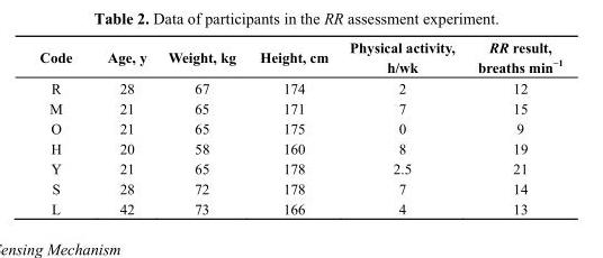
<table><thead><tr><td>Code</td><td>Age, y</td><td>Weight, kg</td><td>Height, cm</td><td>Physical activity, h/wk</td><td>RR result, breaths min<sup>−1</sup></td></tr></thead><tbody><tr><td>R</td><td>28</td><td>67</td><td>174</td><td>2</td><td>12</td></tr><tr><td>M</td><td>21</td><td>65</td><td>171</td><td>7</td><td>15</td></tr><tr><td>O</td><td>21</td><td>65</td><td>175</td><td>0</td><td>9</td></tr><tr><td>H</td><td>20</td><td>58</td><td>160</td><td>8</td><td>19</td></tr><tr><td>Y</td><td>21</td><td>65</td><td>178</td><td>2.5</td><td>21</td></tr><tr><td>S</td><td>28</td><td>72</td><td>178</td><td>7</td><td>14</td></tr><tr><td>L</td><td>42</td><td>73</td><td>166</td><td>4</td><td>13</td></tr></tbody></table>